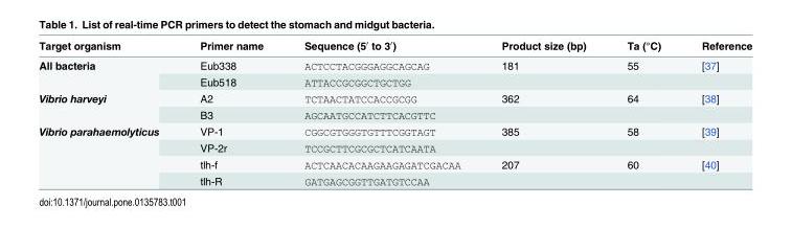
<table><thead><tr><td>Target organism</td><td>Primer name</td><td>Sequence (5′ to 3′)</td><td>Product size (bp)</td><td>Ta (°C)</td><td>Reference</td></tr></thead><tbody><tr><td rowspan="2">All bacteria</td><td>Eub338</td><td>ACTCCTACGGGAGGCAGCAG</td><td>181</td><td>55</td><td>[37]</td></tr><tr><td>Eub518</td><td>ATTACCGCGGCTGCTGG</td><td></td><td></td><td></td></tr><tr><td rowspan="2">Vibrio harveyi</td><td>A2</td><td>TCTAACTATCCACCGCGG</td><td>362</td><td>64</td><td>[38]</td></tr><tr><td>B3</td><td>AGCAATGCCATCTTCACGTTC</td><td></td><td></td><td></td></tr><tr><td rowspan="4">Vibrio parahaemolyticus</td><td>VP-1</td><td>CGGCGTGGGTGTTTCGGTAGT</td><td>385</td><td>58</td><td>[39]</td></tr><tr><td>VP-2r</td><td>TCCGCTTCGCGCTCATCAATA</td><td></td><td></td><td></td></tr><tr><td>tlh-f</td><td>ACTCAACACAAGAAGAGATCGACAA</td><td>207</td><td>60</td><td>[40]</td></tr><tr><td>tlh-R</td><td>GATGAGCGGTTGATGTCCAA</td><td></td><td></td><td></td></tr></tbody></table>